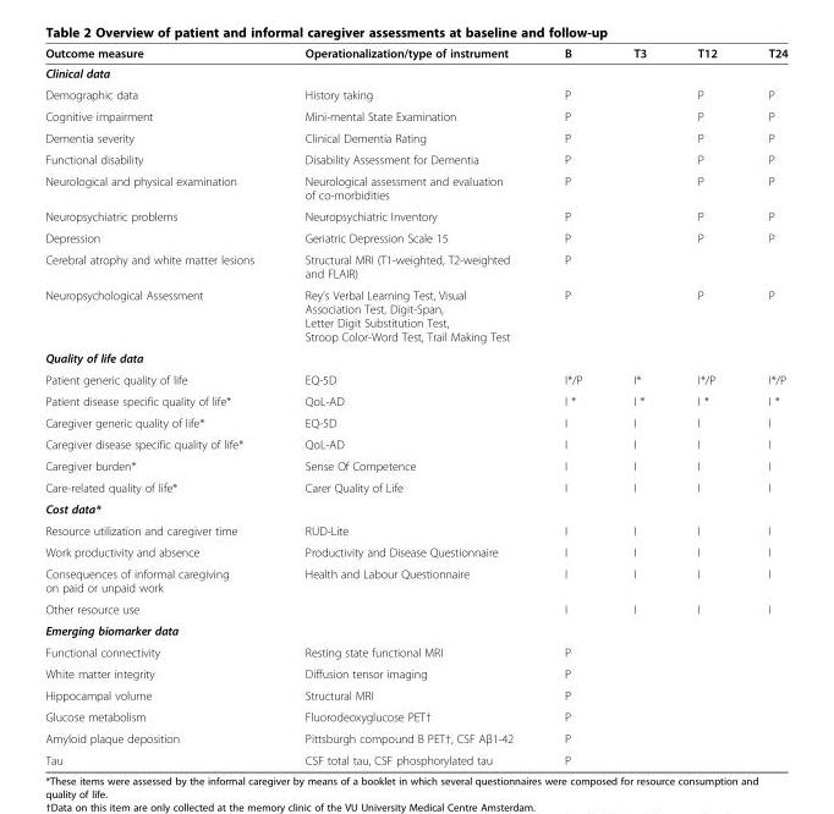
<table><thead><tr><td>Outcome measure</td><td>Operationalization/type of instrument</td><td>B</td><td>T3</td><td>T12</td><td>T24</td></tr></thead><tbody><tr><td colspan="6">Clinical data</td></tr><tr><td>Demographic data</td><td>History taking</td><td>P</td><td></td><td>P</td><td>P</td></tr><tr><td>Cognitive impairment</td><td>Mini-mental State Examination</td><td>P</td><td></td><td>P</td><td>P</td></tr><tr><td>Dementia severity</td><td>Clinical Dementia Rating</td><td>P</td><td></td><td>P</td><td>P</td></tr><tr><td>Functional disability</td><td>Disability Assessment for Dementia</td><td>P</td><td></td><td>P</td><td>P</td></tr><tr><td>Neurological and physical examination</td><td>Neurological assessment and evaluation of co-morbidities</td><td>P</td><td></td><td>P</td><td>P</td></tr><tr><td>Neuropsychiatric problems</td><td>Neuropsychiatric Inventory</td><td>P</td><td></td><td>P</td><td>P</td></tr><tr><td>Depression</td><td>Geriatric Depression Scale 15</td><td>P</td><td></td><td>P</td><td>P</td></tr><tr><td>Cerebral atrophy and white matter lesions</td><td>Structural MRI (T1-weighted, T2-weighted and FLAIR)</td><td>P</td><td></td><td></td><td></td></tr><tr><td>Neuropsychological Assessment</td><td>Rey’s Verbal Learning Test, Visual Association Test, Digit-Span, Letter Digit Substitution Test, Stroop Color-Word Test, Trail Making Test</td><td>P</td><td></td><td>P</td><td>P</td></tr><tr><td colspan="6">Quality of life data</td></tr><tr><td>Patient generic quality of life</td><td>EQ-5D</td><td>I*/P</td><td>I*</td><td>I*/P</td><td>I*/P</td></tr><tr><td>Patient disease specific quality of life*</td><td>QoL-AD</td><td>I *</td><td>I *</td><td>I *</td><td>I *</td></tr><tr><td>Caregiver generic quality of life*</td><td>EQ-5D</td><td>I</td><td>I</td><td>I</td><td>I</td></tr><tr><td>Caregiver disease specific quality of life*</td><td>QoL-AD</td><td>I</td><td>I</td><td>I</td><td>I</td></tr><tr><td>Caregiver burden*</td><td>Sense Of Competence</td><td>I</td><td>I</td><td>I</td><td>I</td></tr><tr><td>Care-related quality of life*</td><td>Carer Quality of Life</td><td>I</td><td>I</td><td>I</td><td>I</td></tr><tr><td colspan="6">Cost data*</td></tr><tr><td>Resource utilization and caregiver time</td><td>RUD-Lite</td><td>I</td><td>I</td><td>I</td><td>I</td></tr><tr><td>Work productivity and absence</td><td>Productivity and Disease Questionnaire</td><td>I</td><td>I</td><td>I</td><td>I</td></tr><tr><td>Consequences of informal caregiving on paid or unpaid work</td><td>Health and Labour Questionnaire</td><td>I</td><td>I</td><td>I</td><td>I</td></tr><tr><td>Other resource use</td><td></td><td>I</td><td>I</td><td>I</td><td>I</td></tr><tr><td colspan="6">Emerging biomarker data</td></tr><tr><td>Functional connectivity</td><td>Resting state functional MRI</td><td>P</td><td></td><td></td><td></td></tr><tr><td>White matter integrity</td><td>Diffusion tensor imaging</td><td>P</td><td></td><td></td><td></td></tr><tr><td>Hippocampal volume</td><td>Structural MRI</td><td>P</td><td></td><td></td><td></td></tr><tr><td>Glucose metabolism</td><td>Fluorodeoxyglucose PET†</td><td>P</td><td></td><td></td><td></td></tr><tr><td>Amyloid plaque deposition</td><td>Pittsburgh compound B PET†, CSF Aβ1-42</td><td>P</td><td></td><td></td><td></td></tr><tr><td>Tau</td><td>CSF total tau, CSF phosphorylated tau</td><td>P</td><td></td><td></td><td></td></tr></tbody></table>